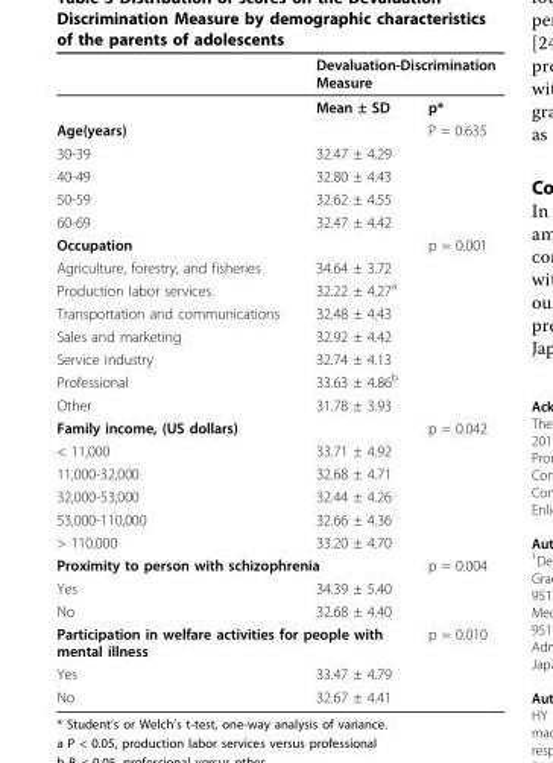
<table><thead><tr><td rowspan="2"></td><td colspan="2">Devaluation-Discrimination Measure</td></tr><tr><td>Mean ± SD</td><td>p*</td></tr></thead><tbody><tr><td>Age(years)</td><td></td><td>P = 0.635</td></tr><tr><td>30-39</td><td>32.47 ± 4.29</td><td></td></tr><tr><td>40-49</td><td>32.80 ± 4.43</td><td></td></tr><tr><td>50-59</td><td>32.62 ± 4.55</td><td></td></tr><tr><td>60-69</td><td>32.47 ± 4.42</td><td></td></tr><tr><td>Occupation</td><td></td><td>p = 0.001</td></tr><tr><td>Agriculture, forestry, and fisheries</td><td colspan="2">34.64 ± 3.72</td></tr><tr><td>Production labor services</td><td colspan="2">32.22 ± 4.27<sup>a</sup></td></tr><tr><td>Transportation and communications</td><td colspan="2">32.48 ± 4.43</td></tr><tr><td>Sales and marketing</td><td colspan="2">32.92 ± 4.42</td></tr><tr><td>Service industry</td><td colspan="2">32.74 ± 4.13</td></tr><tr><td>Professional</td><td colspan="2">33.63 ± 4.86<sup>b</sup></td></tr><tr><td>Other</td><td colspan="2">31.78 ± 3.93</td></tr><tr><td colspan="2">Family income, (US dollars)</td><td>p = 0.042</td></tr><tr><td>&lt; 11,000</td><td>33.71 ± 4.92</td><td></td></tr><tr><td>11,000-32,000</td><td>32.68 ± 4.71</td><td></td></tr><tr><td>32,000-53,000</td><td>32.44 ± 4.26</td><td></td></tr><tr><td>53,000-110,000</td><td>32.66 ± 4.36</td><td></td></tr><tr><td>&gt; 110,000</td><td>33.20 ± 4.70</td><td></td></tr><tr><td colspan="2">Proximity to person with schizophrenia</td><td>p = 0.004</td></tr><tr><td>Yes</td><td>34.39 ± 5.40</td><td></td></tr><tr><td>No</td><td>32.68 ± 4.40</td><td></td></tr><tr><td colspan="2">Participation in welfare activities for people with mental illness</td><td>p = 0.010</td></tr><tr><td>Yes</td><td colspan="2">33.47 ± 4.79</td></tr><tr><td>No</td><td colspan="2">32.67 ± 4.41</td></tr></tbody></table>